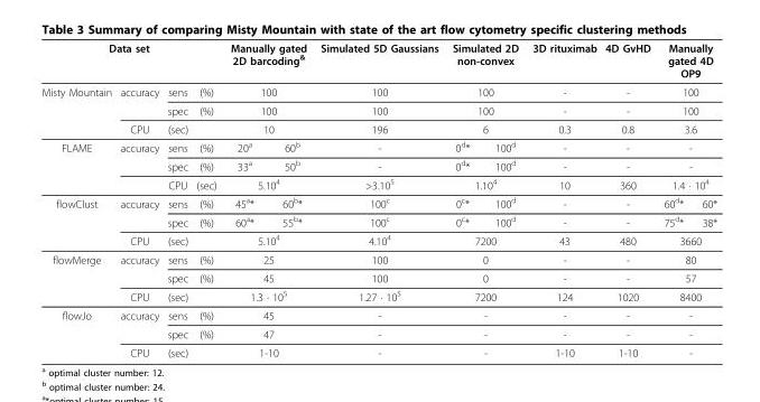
<table><thead><tr><td colspan="4">Data set</td><td colspan="2">Manually gated 2D barcoding<sup>&amp;</sup></td><td>Simulated 5D Gaussians</td><td colspan="2">Simulated 2D non-convex</td><td>3D rituximab</td><td>4D GvHD</td><td colspan="2">Manually gated 4D OP9</td></tr></thead><tbody><tr><td rowspan="3">Misty Mountain</td><td>accuracy</td><td>sens</td><td>(%)</td><td colspan="2">100</td><td>100</td><td colspan="2">100</td><td>-</td><td>-</td><td colspan="2">100</td></tr><tr><td></td><td>spec</td><td>(%)</td><td colspan="2">100</td><td>100</td><td colspan="2">100</td><td>-</td><td>-</td><td colspan="2">100</td></tr><tr><td>CPU</td><td>(sec)</td><td></td><td colspan="2">10</td><td>196</td><td colspan="2">6</td><td>0.3</td><td>0.8</td><td colspan="2">3.6</td></tr><tr><td rowspan="3">FLAME</td><td>accuracy</td><td>sens</td><td>(%)</td><td>20<sup>a</sup></td><td>60<sup>b</sup></td><td>-</td><td>0<sup>d</sup>*</td><td>100<sup>d</sup></td><td>-</td><td>-</td><td colspan="2">-</td></tr><tr><td></td><td>spec</td><td>(%)</td><td>33<sup>a</sup></td><td>50<sup>b</sup></td><td>-</td><td>0<sup>d</sup>*</td><td>100<sup>d</sup></td><td>-</td><td>-</td><td colspan="2">-</td></tr><tr><td></td><td>CPU</td><td>(sec)</td><td colspan="2">5.10<sup>4</sup></td><td>&gt;3.10<sup>5</sup></td><td colspan="2">1.10<sup>4</sup></td><td>10</td><td>360</td><td colspan="2">1.4 · 10<sup>4</sup></td></tr><tr><td rowspan="3">flowClust</td><td>accuracy</td><td>sens</td><td>(%)</td><td>45<sup>a</sup>*</td><td>60<sup>b</sup>*</td><td>100<sup>c</sup></td><td>0<sup>c</sup>*</td><td>100<sup>d</sup></td><td>-</td><td>-</td><td>60<sup>d</sup>*</td><td>60*</td></tr><tr><td></td><td>spec</td><td>(%)</td><td>60<sup>a</sup>*</td><td>55<sup>b</sup>*</td><td>100<sup>c</sup></td><td>0<sup>c</sup>*</td><td>100<sup>d</sup></td><td>-</td><td>-</td><td>75<sup>d</sup>*</td><td>38*</td></tr><tr><td>CPU</td><td>(sec)</td><td></td><td colspan="2">5.10<sup>4</sup></td><td>4.10<sup>4</sup></td><td colspan="2">7200</td><td>43</td><td>480</td><td colspan="2">3660</td></tr><tr><td rowspan="3">flowMerge</td><td>accuracy</td><td>sens</td><td>(%)</td><td colspan="2">25</td><td>100</td><td colspan="2">0</td><td>-</td><td>-</td><td colspan="2">80</td></tr><tr><td></td><td>spec</td><td>(%)</td><td colspan="2">45</td><td>100</td><td colspan="2">0</td><td>-</td><td>-</td><td colspan="2">57</td></tr><tr><td>CPU</td><td>(sec)</td><td></td><td colspan="2">1.3 · 10<sup>5</sup></td><td>1.27 · 10<sup>5</sup></td><td colspan="2">7200</td><td>124</td><td>1020</td><td colspan="2">8400</td></tr><tr><td rowspan="3">flowJo</td><td>accuracy</td><td>sens</td><td>(%)</td><td colspan="2">45</td><td>-</td><td colspan="2">-</td><td>-</td><td>-</td><td colspan="2">-</td></tr><tr><td></td><td>spec</td><td>(%)</td><td colspan="2">47</td><td>-</td><td colspan="2">-</td><td>-</td><td>-</td><td colspan="2">-</td></tr><tr><td>CPU</td><td>(sec)</td><td></td><td colspan="2">1-10</td><td>-</td><td colspan="2">-</td><td>1-10</td><td>1-10</td><td colspan="2">-</td></tr></tbody></table>